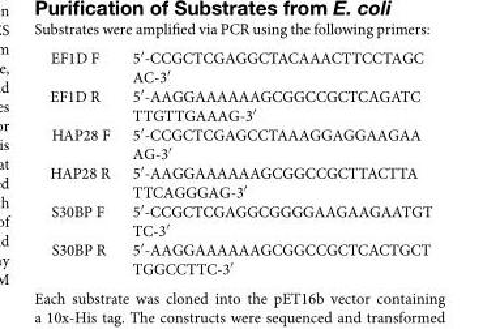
<table><tbody><tr><td>EF1D F</td><td>5′-CCGCTCGAGGCTACAAACTTCCTAGC AC-3′</td></tr><tr><td>EF1D R</td><td>5′-AAGGAAAAAAGCGGCCGCTCAGATC TTGTTGAAAG-3′</td></tr><tr><td>HAP28 F</td><td>5′-CCGCTCGAGCCTAAAGGAGGAAGAA AG-3′</td></tr><tr><td>HAP28 R</td><td>5′-AAGGAAAAAAGCGGCCGCTTACTTA TTCAGGGAG-3′</td></tr><tr><td>S30BP F</td><td>5′-CCGCTCGAGGCGGGGAAGAAGAATGT TC-3′</td></tr><tr><td>S30BP R</td><td>5′-AAGGAAAAAAGCGGCCGCTCACTGCT TGGCCTTC-3′</td></tr></tbody></table>